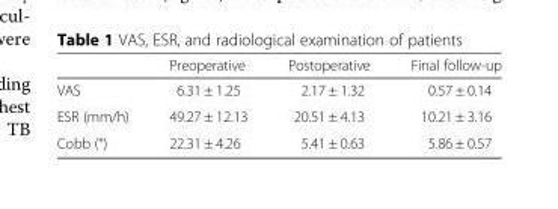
<table><thead><tr><td></td><td>Preoperative</td><td>Postoperative</td><td>Final follow-up</td></tr></thead><tbody><tr><td>VAS</td><td>6.31 ± 1.25</td><td>2.17 ± 1.32</td><td>0.57 ± 0.14</td></tr><tr><td>ESR (mm/h)</td><td>49.27 ± 12.13</td><td>20.51 ± 4.13</td><td>10.21 ± 3.16</td></tr><tr><td>Cobb (°)</td><td>22.31 ± 4.26</td><td>5.41 ± 0.63</td><td>5.86 ± 0.57</td></tr></tbody></table>